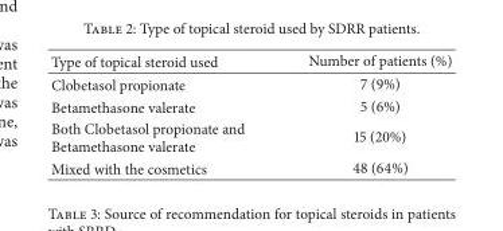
<table><thead><tr><td>Type of topical steroid used</td><td>Number of patients (%)</td></tr></thead><tbody><tr><td>Clobetasol propionate</td><td>7 (9%)</td></tr><tr><td>Betamethasone valerate</td><td>5 (6%)</td></tr><tr><td>Both Clobetasol propionate and Betamethasone valerate</td><td>15 (20%)</td></tr><tr><td>Mixed with the cosmetics</td><td>48 (64%)</td></tr></tbody></table>